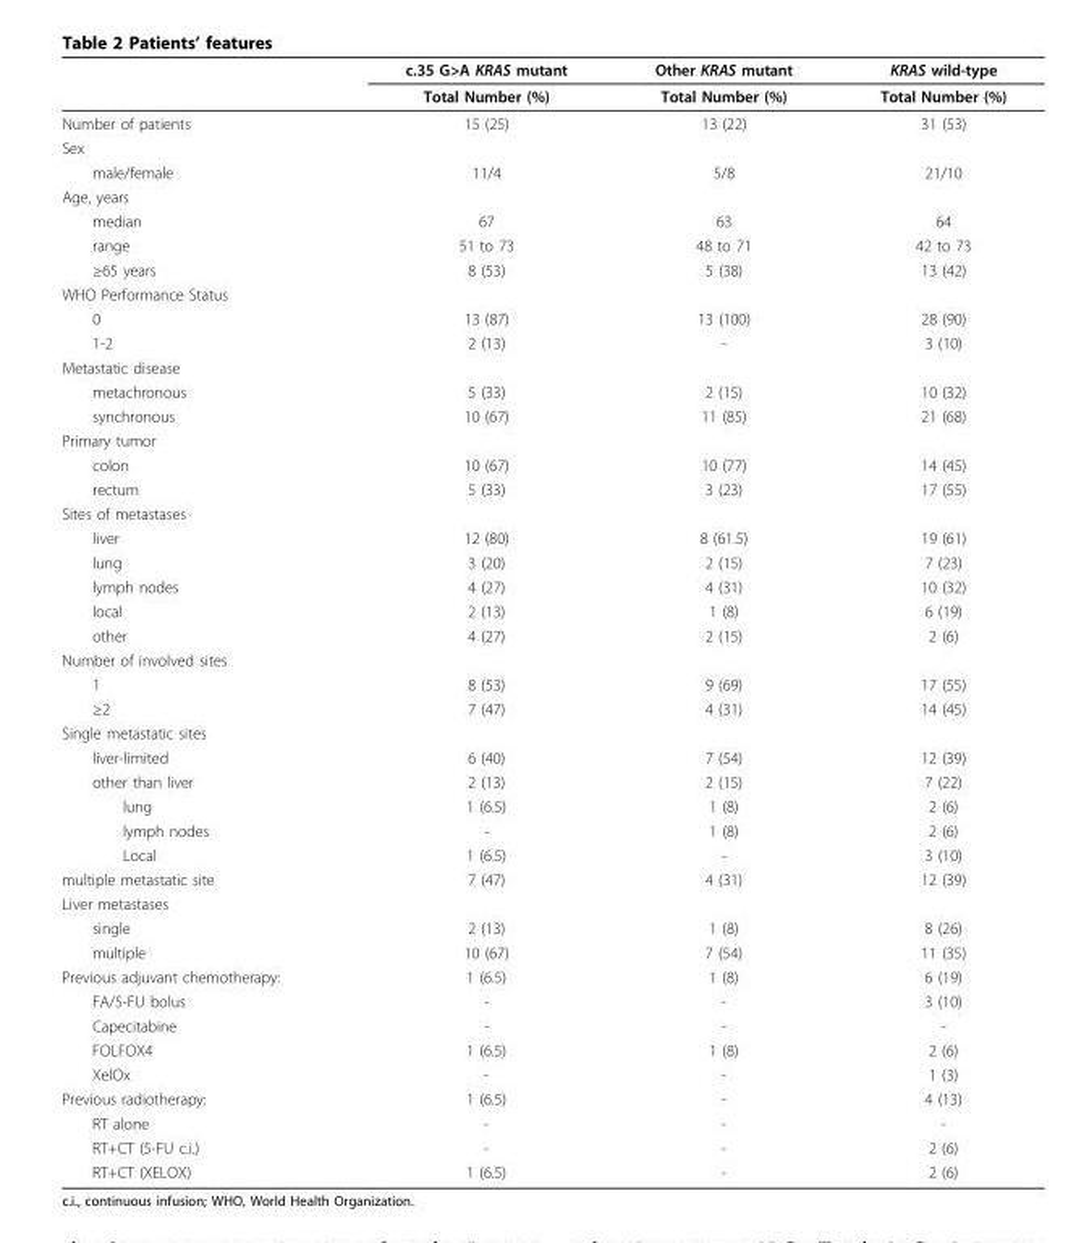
<table><thead><tr><td rowspan="2"></td><td rowspan="2">c.35 G&gt;A KRAS mutant Total Number (%)</td><td rowspan="2">Other KRAS mutant Total Number (%)</td><td rowspan="2">KRAS wild-type Total Number (%)</td></tr><tr></tr></thead><tbody><tr><td>Number of patients</td><td>15 (25)</td><td>13 (22)</td><td>31 (53)</td></tr><tr><td colspan="4">Sex</td></tr><tr><td>male/female</td><td>11/4</td><td>5/8</td><td>21/10</td></tr><tr><td colspan="4">Age, years</td></tr><tr><td>median</td><td>67</td><td>63</td><td>64</td></tr><tr><td>range</td><td>51 to 73</td><td>48 to 71</td><td>42 to 73</td></tr><tr><td>≥65 years</td><td>8 (53)</td><td>5 (38)</td><td>13 (42)</td></tr><tr><td colspan="4">WHO Performance Status</td></tr><tr><td>0</td><td>13 (87)</td><td>13 (100)</td><td>28 (90)</td></tr><tr><td>1-2</td><td>2 (13)</td><td>-</td><td>3 (10)</td></tr><tr><td colspan="4">Metastatic disease</td></tr><tr><td>metachronous</td><td>5 (33)</td><td>2 (15)</td><td>10 (32)</td></tr><tr><td>synchronous</td><td>10 (67)</td><td>11 (85)</td><td>21 (68)</td></tr><tr><td colspan="4">Primary tumor</td></tr><tr><td>colon</td><td>10 (67)</td><td>10 (77)</td><td>14 (45)</td></tr><tr><td>rectum</td><td>5 (33)</td><td>3 (23)</td><td>17 (55)</td></tr><tr><td colspan="4">Sites of metastases</td></tr><tr><td>liver</td><td>12 (80)</td><td>8 (61.5)</td><td>19 (61)</td></tr><tr><td>lung</td><td>3 (20)</td><td>2 (15)</td><td>7 (23)</td></tr><tr><td>lymph nodes</td><td>4 (27)</td><td>4 (31)</td><td>10 (32)</td></tr><tr><td>local</td><td>2 (13)</td><td>1 (8)</td><td>6 (19)</td></tr><tr><td>other</td><td>4 (27)</td><td>2 (15)</td><td>2 (6)</td></tr><tr><td colspan="4">Number of involved sites</td></tr><tr><td>1</td><td>8 (53)</td><td>9 (69)</td><td>17 (55)</td></tr><tr><td>≥2</td><td>7 (47)</td><td>4 (31)</td><td>14 (45)</td></tr><tr><td colspan="4">Single metastatic sites</td></tr><tr><td>liver-limited</td><td>6 (40)</td><td>7 (54)</td><td>12 (39)</td></tr><tr><td>other than liver</td><td>2 (13)</td><td>2 (15)</td><td>7 (22)</td></tr><tr><td>lung</td><td>1 (6.5)</td><td>1 (8)</td><td>2 (6)</td></tr><tr><td>lymph nodes</td><td>-</td><td>1 (8)</td><td>2 (6)</td></tr><tr><td>Local</td><td>1 (6.5)</td><td>-</td><td>3 (10)</td></tr><tr><td>multiple metastatic site</td><td>7 (47)</td><td>4 (31)</td><td>12 (39)</td></tr><tr><td colspan="4">Liver metastases</td></tr><tr><td>single</td><td>2 (13)</td><td>1 (8)</td><td>8 (26)</td></tr><tr><td>multiple</td><td>10 (67)</td><td>7 (54)</td><td>11 (35)</td></tr><tr><td>Previous adjuvant chemotherapy:</td><td>1 (6.5)</td><td>1 (8)</td><td>6 (19)</td></tr><tr><td>FA/5-FU bolus</td><td>-</td><td>-</td><td>3 (10)</td></tr><tr><td>Capecitabine</td><td>-</td><td>-</td><td>-</td></tr><tr><td>FOLFOX4</td><td>1 (6.5)</td><td>1 (8)</td><td>2 (6)</td></tr><tr><td>XelOx</td><td>-</td><td>-</td><td>1 (3)</td></tr><tr><td>Previous radiotherapy:</td><td>1 (6.5)</td><td>-</td><td>4 (13)</td></tr><tr><td>RT alone</td><td>-</td><td>-</td><td>-</td></tr><tr><td>RT+CT (5-FU c.i.)</td><td>-</td><td>-</td><td>2 (6)</td></tr><tr><td>RT+CT (XELOX)</td><td>1 (6.5)</td><td>-</td><td>2 (6)</td></tr></tbody></table>